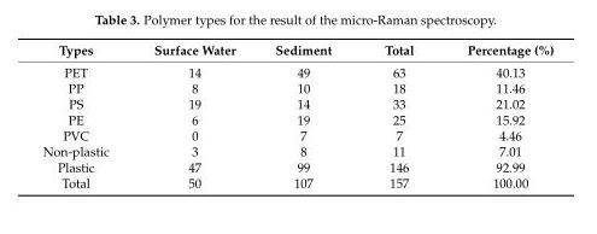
<table><thead><tr><td>Types</td><td>Surface Water</td><td>Sediment</td><td>Total</td><td>Percentage (%)</td></tr></thead><tbody><tr><td>PET</td><td>14</td><td>49</td><td>63</td><td>40.13</td></tr><tr><td>PP</td><td>8</td><td>10</td><td>18</td><td>11.46</td></tr><tr><td>PS</td><td>19</td><td>14</td><td>33</td><td>21.02</td></tr><tr><td>PE</td><td>6</td><td>19</td><td>25</td><td>15.92</td></tr><tr><td>PVC</td><td>0</td><td>7</td><td>7</td><td>4.46</td></tr><tr><td>Non-plastic</td><td>3</td><td>8</td><td>11</td><td>7.01</td></tr><tr><td>Plastic</td><td>47</td><td>99</td><td>146</td><td>92.99</td></tr><tr><td>Total</td><td>50</td><td>107</td><td>157</td><td>100.00</td></tr></tbody></table>